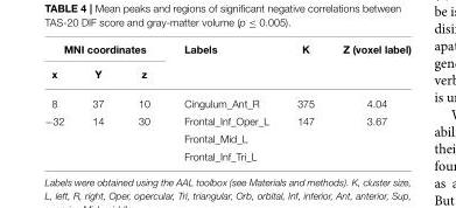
<table><thead><tr><td colspan="3">MNI coordinates</td><td rowspan="2">Labels</td><td rowspan="2">K</td><td rowspan="2">Z (voxel label)</td></tr><tr><td>x</td><td>Y</td><td>z</td></tr></thead><tbody><tr><td>8</td><td>37</td><td>10</td><td>Cingulum_Ant_R</td><td>375</td><td>4.04</td></tr><tr><td rowspan="3">−32</td><td>14</td><td>30</td><td>Frontal_Inf_Oper_L</td><td>147</td><td>3.67</td></tr><tr><td></td><td></td><td>Frontal_Mid_L</td><td></td><td></td></tr><tr><td></td><td></td><td>Frontal_Inf_Tri_L</td><td></td><td></td></tr></tbody></table>